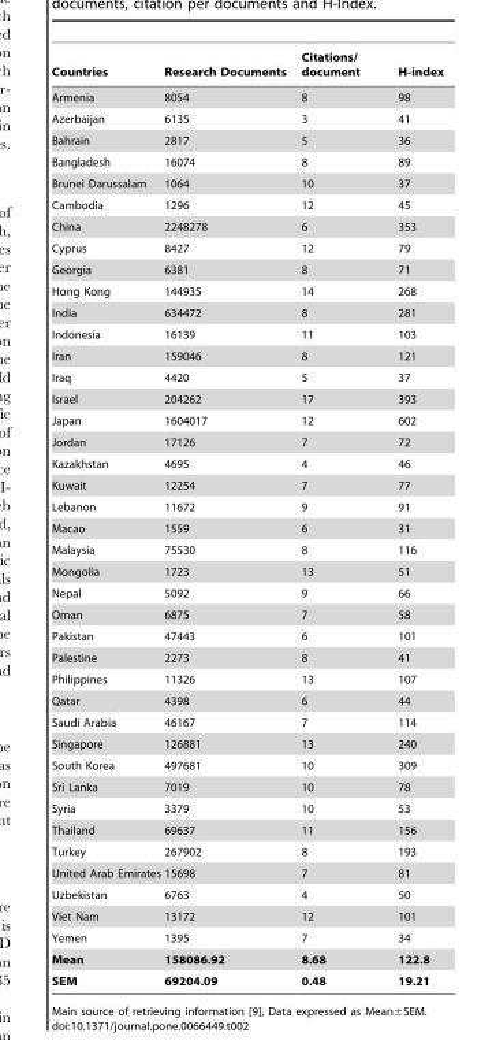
<table><thead><tr><td>Countries</td><td>Research Documents</td><td>Citations/ document</td><td>H-index</td></tr></thead><tbody><tr><td>Armenia</td><td>8054</td><td>8</td><td>98</td></tr><tr><td>Azerbaijan</td><td>6135</td><td>3</td><td>41</td></tr><tr><td>Bahrain</td><td>2817</td><td>5</td><td>36</td></tr><tr><td>Bangladesh</td><td>16074</td><td>8</td><td>89</td></tr><tr><td>Brunei Darussalam</td><td>1064</td><td>10</td><td>37</td></tr><tr><td>Cambodia</td><td>1296</td><td>12</td><td>45</td></tr><tr><td>China</td><td>2248278</td><td>6</td><td>353</td></tr><tr><td>Cyprus</td><td>8427</td><td>12</td><td>79</td></tr><tr><td>Georgia</td><td>6381</td><td>8</td><td>71</td></tr><tr><td>Hong Kong</td><td>144935</td><td>14</td><td>268</td></tr><tr><td>India</td><td>634472</td><td>8</td><td>281</td></tr><tr><td>Indonesia</td><td>16139</td><td>11</td><td>103</td></tr><tr><td>Iran</td><td>159046</td><td>8</td><td>121</td></tr><tr><td>Iraq</td><td>4420</td><td>5</td><td>37</td></tr><tr><td>Israel</td><td>204262</td><td>17</td><td>393</td></tr><tr><td>Japan</td><td>1604017</td><td>12</td><td>602</td></tr><tr><td>Jordan</td><td>17126</td><td>7</td><td>72</td></tr><tr><td>Kazakhstan</td><td>4695</td><td>4</td><td>46</td></tr><tr><td>Kuwait</td><td>12254</td><td>7</td><td>77</td></tr><tr><td>Lebanon</td><td>11672</td><td>9</td><td>91</td></tr><tr><td>Macao</td><td>1559</td><td>6</td><td>31</td></tr><tr><td>Malaysia</td><td>75530</td><td>8</td><td>116</td></tr><tr><td>Mongolia</td><td>1723</td><td>13</td><td>51</td></tr><tr><td>Nepal</td><td>5092</td><td>9</td><td>66</td></tr><tr><td>Oman</td><td>6875</td><td>7</td><td>58</td></tr><tr><td>Pakistan</td><td>47443</td><td>6</td><td>101</td></tr><tr><td>Palestine</td><td>2273</td><td>8</td><td>41</td></tr><tr><td>Philippines</td><td>11326</td><td>13</td><td>107</td></tr><tr><td>Qatar</td><td>4398</td><td>6</td><td>44</td></tr><tr><td>Saudi Arabia</td><td>46167</td><td>7</td><td>114</td></tr><tr><td>Singapore</td><td>126881</td><td>13</td><td>240</td></tr><tr><td>South Korea</td><td>497681</td><td>10</td><td>309</td></tr><tr><td>Sri Lanka</td><td>7019</td><td>10</td><td>78</td></tr><tr><td>Syria</td><td>3379</td><td>10</td><td>53</td></tr><tr><td>Thailand</td><td>69637</td><td>11</td><td>156</td></tr><tr><td>Turkey</td><td>267902</td><td>8</td><td>193</td></tr><tr><td>United Arab Emirates</td><td>15698</td><td>7</td><td>81</td></tr><tr><td>Uzbekistan</td><td>6763</td><td>4</td><td>50</td></tr><tr><td>Viet Nam</td><td>13172</td><td>12</td><td>101</td></tr><tr><td>Yemen</td><td>1395</td><td>7</td><td>34</td></tr><tr><td>Mean</td><td>158086.92</td><td>8.68</td><td>122.8</td></tr><tr><td>SEM</td><td>69204.09</td><td>0.48</td><td>19.21</td></tr></tbody></table>